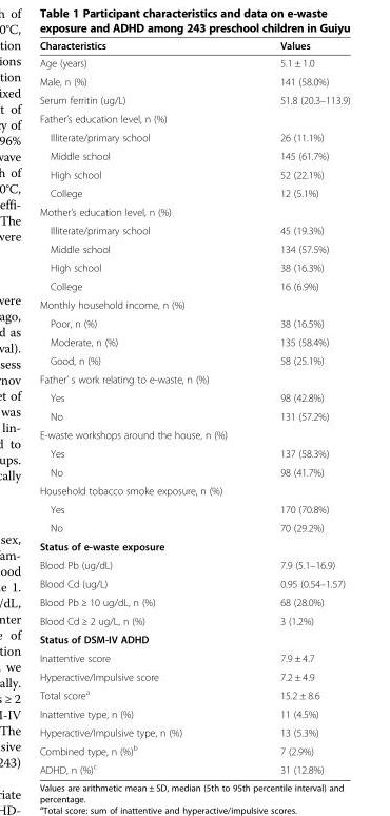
<table><thead><tr><td>Characteristics</td><td>Values</td></tr></thead><tbody><tr><td>Age (years)</td><td>5.1 ± 1.0</td></tr><tr><td>Male, n (%)</td><td>141 (58.0%)</td></tr><tr><td>Serum ferritin (ug/L)</td><td>51.8 (20.3–113.9)</td></tr><tr><td colspan="2">Father’s education level, n (%)</td></tr><tr><td>Illiterate/primary school</td><td>26 (11.1%)</td></tr><tr><td>Middle school</td><td>145 (61.7%)</td></tr><tr><td>High school</td><td>52 (22.1%)</td></tr><tr><td>College</td><td>12 (5.1%)</td></tr><tr><td colspan="2">Mother’s education level, n (%)</td></tr><tr><td>Illiterate/primary school</td><td>45 (19.3%)</td></tr><tr><td>Middle school</td><td>134 (57.5%)</td></tr><tr><td>High school</td><td>38 (16.3%)</td></tr><tr><td>College</td><td>16 (6.9%)</td></tr><tr><td colspan="2">Monthly household income, n (%)</td></tr><tr><td>Poor, n (%)</td><td>38 (16.5%)</td></tr><tr><td>Moderate, n (%)</td><td>135 (58.4%)</td></tr><tr><td>Good, n (%)</td><td>58 (25.1%)</td></tr><tr><td colspan="2">Father’ s work relating to e-waste, n (%)</td></tr><tr><td>Yes</td><td>98 (42.8%)</td></tr><tr><td>No</td><td>131 (57.2%)</td></tr><tr><td colspan="2">E-waste workshops around the house, n (%)</td></tr><tr><td>Yes</td><td>137 (58.3%)</td></tr><tr><td>No</td><td>98 (41.7%)</td></tr><tr><td colspan="2">Household tobacco smoke exposure, n (%)</td></tr><tr><td>Yes</td><td>170 (70.8%)</td></tr><tr><td>No</td><td>70 (29.2%)</td></tr><tr><td colspan="2">Status of e-waste exposure</td></tr><tr><td>Blood Pb (ug/dL)</td><td>7.9 (5.1–16.9)</td></tr><tr><td>Blood Cd (ug/L)</td><td>0.95 (0.54–1.57)</td></tr><tr><td>Blood Pb ≥ 10 ug/dL, n (%)</td><td>68 (28.0%)</td></tr><tr><td>Blood Cd ≥ 2 ug/L, n (%)</td><td>3 (1.2%)</td></tr><tr><td colspan="2">Status of DSM-IV ADHD</td></tr><tr><td>Inattentive score</td><td>7.9 ± 4.7</td></tr><tr><td>Hyperactive/Impulsive score</td><td>7.2 ± 4.9</td></tr><tr><td>Total score<sup>a</sup></td><td>15.2 ± 8.6</td></tr><tr><td>Inattentive type, n (%)</td><td>11 (4.5%)</td></tr><tr><td>Hyperactive/Impulsive type, n (%)</td><td>13 (5.3%)</td></tr><tr><td>Combined type, n (%)<sup>b</sup></td><td>7 (2.9%)</td></tr><tr><td>ADHD, n (%)<sup>c</sup></td><td>31 (12.8%)</td></tr></tbody></table>